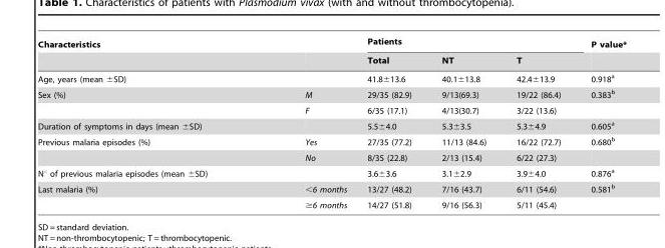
<table><thead><tr><td rowspan="2">Characteristics</td><td rowspan="2"></td><td colspan="3">Patients</td><td rowspan="2">P value*</td></tr><tr><td>Total</td><td>NT</td><td>T</td></tr></thead><tbody><tr><td>Age, years (mean ±SD)</td><td></td><td>41.8±13.6</td><td>40.1±13.8</td><td>42.4±13.9</td><td>0.918<sup>a</sup></td></tr><tr><td rowspan="2">Sex (%)</td><td>M</td><td>29/35 (82.9)</td><td>9/13(69.3)</td><td>19/22 (86.4)</td><td>0.383<sup>b</sup></td></tr><tr><td>F</td><td>6/35 (17.1)</td><td>4/13(30.7)</td><td>3/22 (13.6)</td><td></td></tr><tr><td>Duration of symptoms in days (mean ±SD)</td><td></td><td>5.5±4.0</td><td>5.3±3.5</td><td>5.3±4.9</td><td>0.605<sup>a</sup></td></tr><tr><td rowspan="2">Previous malaria episodes (%)</td><td>Yes</td><td>27/35 (77.2)</td><td>11/13 (84.6)</td><td>16/22 (72.7)</td><td>0.680<sup>b</sup></td></tr><tr><td>No</td><td>8/35 (22.8)</td><td>2/13 (15.4)</td><td>6/22 (27.3)</td><td></td></tr><tr><td>N° of previous malaria episodes (mean ±SD)</td><td></td><td>3.6±3.6</td><td>3.1±2.9</td><td>3.9±4.0</td><td>0.876<sup>a</sup></td></tr><tr><td rowspan="2">Last malaria (%)</td><td>&lt;6 months</td><td>13/27 (48.2)</td><td>7/16 (43.7)</td><td>6/11 (54.6)</td><td>0.581<sup>b</sup></td></tr><tr><td>≥6 months</td><td>14/27 (51.8)</td><td>9/16 (56.3)</td><td>5/11 (45.4)</td><td></td></tr></tbody></table>